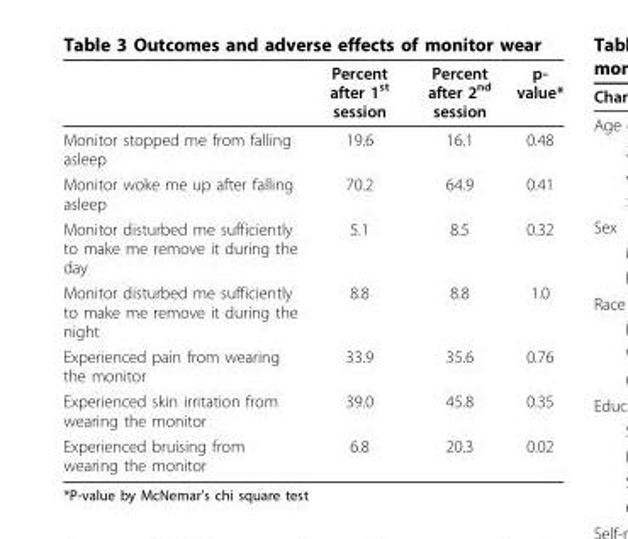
<table><thead><tr><td></td><td>Percent after 1<sup>st</sup> session</td><td>Percent after 2<sup>nd</sup> session</td><td>p- value*</td></tr></thead><tbody><tr><td>Monitor stopped me from falling asleep</td><td>19.6</td><td>16.1</td><td>0.48</td></tr><tr><td>Monitor woke me up after falling asleep</td><td>70.2</td><td>64.9</td><td>0.41</td></tr><tr><td>Monitor disturbed me sufficiently to make me remove it during the day</td><td>5.1</td><td>8.5</td><td>0.32</td></tr><tr><td>Monitor disturbed me sufficiently to make me remove it during the night</td><td>8.8</td><td>8.8</td><td>1.0</td></tr><tr><td>Experienced pain from wearing the monitor</td><td>33.9</td><td>35.6</td><td>0.76</td></tr><tr><td>Experienced skin irritation from wearing the monitor</td><td>39.0</td><td>45.8</td><td>0.35</td></tr><tr><td>Experienced bruising from wearing the monitor</td><td>6.8</td><td>20.3</td><td>0.02</td></tr></tbody></table>